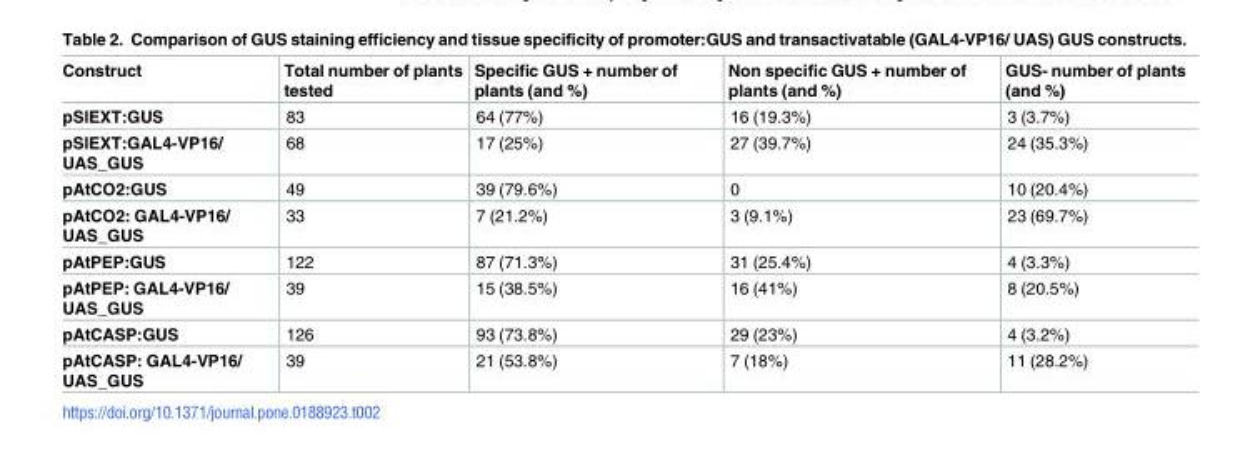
<table><thead><tr><td>Construct</td><td>Total number of plants tested</td><td>Specific GUS + number of plants (and %)</td><td>Non specific GUS + number of plants (and %)</td><td>GUS- number of plants (and %)</td></tr></thead><tbody><tr><td>pSlEXT:GUS</td><td>83</td><td>64 (77%)</td><td>16 (19.3%)</td><td>3 (3.7%)</td></tr><tr><td>pSlEXT:GAL4-VP16/ UAS_GUS</td><td>68</td><td>17 (25%)</td><td>27 (39.7%)</td><td>24 (35.3%)</td></tr><tr><td>pAtCO2:GUS</td><td>49</td><td>39 (79.6%)</td><td>0</td><td>10 (20.4%)</td></tr><tr><td>pAtCO2: GAL4-VP16/ UAS_GUS</td><td>33</td><td>7 (21.2%)</td><td>3 (9.1%)</td><td>23 (69.7%)</td></tr><tr><td>pAtPEP:GUS</td><td>122</td><td>87 (71.3%)</td><td>31 (25.4%)</td><td>4 (3.3%)</td></tr><tr><td>pAtPEP: GAL4-VP16/ UAS_GUS</td><td>39</td><td>15 (38.5%)</td><td>16 (41%)</td><td>8 (20.5%)</td></tr><tr><td>pAtCASP:GUS</td><td>126</td><td>93 (73.8%)</td><td>29 (23%)</td><td>4 (3.2%)</td></tr><tr><td>pAtCASP: GAL4-VP16/ UAS_GUS</td><td>39</td><td>21 (53.8%)</td><td>7 (18%)</td><td>11 (28.2%)</td></tr></tbody></table>